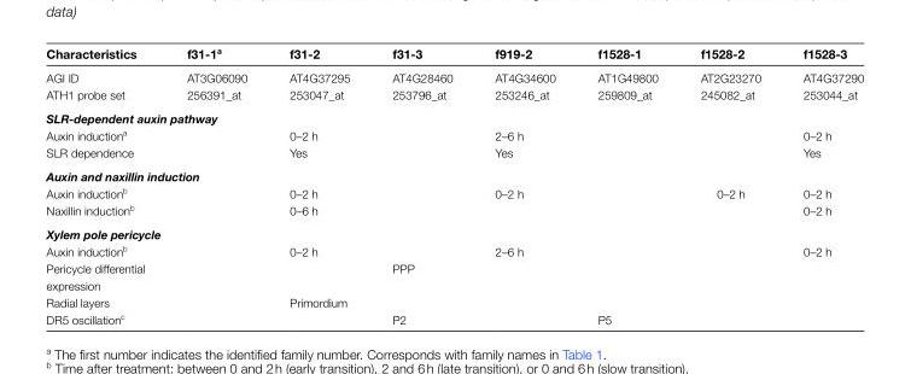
<table><thead><tr><td>Characteristics</td><td>f31-1<sup>a</sup></td><td>f31-2</td><td>f31-3</td><td>f919-2</td><td>f1528-1</td><td>f1528-2</td><td>f1528-3</td></tr></thead><tbody><tr><td>AGI ID</td><td>AT3G06090</td><td>AT4G37295</td><td>AT4G28460</td><td>AT4G34600</td><td>AT1G49800</td><td>AT2G23270</td><td>AT4G37290</td></tr><tr><td>ATH1 probe set</td><td>256391_at</td><td>253047_at</td><td>253796_at</td><td>253246_at</td><td>259809_at</td><td>245082_at</td><td>253044_at</td></tr><tr><td colspan="8">SLR-dependent auxin pathway</td></tr><tr><td>Auxin induction<sup>a</sup></td><td></td><td>0–2 h</td><td></td><td>2–6 h</td><td></td><td></td><td>0–2 h</td></tr><tr><td>SLR dependence</td><td></td><td>Yes</td><td></td><td>Yes</td><td></td><td></td><td>Yes</td></tr><tr><td colspan="8">Auxin and naxillin induction</td></tr><tr><td>Auxin induction<sup>b</sup></td><td></td><td>0–2 h</td><td></td><td>0–2 h</td><td></td><td>0–2 h</td><td>0–2 h</td></tr><tr><td>Naxillin induction<sup>b</sup></td><td></td><td>0–6 h</td><td></td><td></td><td></td><td></td><td>0–2 h</td></tr><tr><td colspan="8">Xylem pole pericycle</td></tr><tr><td>Auxin induction<sup>b</sup></td><td></td><td>0–2 h</td><td></td><td>2–6 h</td><td></td><td></td><td>0–2 h</td></tr><tr><td>Pericycle differential expression</td><td></td><td></td><td>PPP</td><td></td><td></td><td></td><td></td></tr><tr><td>Radial layers</td><td></td><td>Primordium</td><td></td><td></td><td></td><td></td><td></td></tr><tr><td>DR5 oscillation<sup>c</sup></td><td></td><td></td><td>P2</td><td></td><td>P5</td><td></td><td></td></tr></tbody></table>